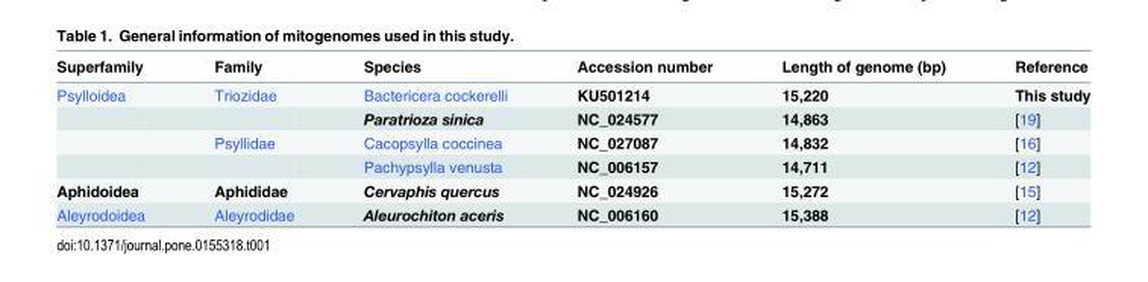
<table><thead><tr><td>Superfamily</td><td>Family</td><td>Species</td><td>Accession number</td><td>Length of genome (bp)</td><td>Reference</td></tr></thead><tbody><tr><td rowspan="4">Psylloidea</td><td>Triozidae</td><td>Bactericera cockerelli</td><td>KU501214</td><td>15,220</td><td>This study</td></tr><tr><td></td><td>Paratrioza sinica</td><td>NC_024577</td><td>14,863</td><td>[19]</td></tr><tr><td>Psyllidae</td><td>Cacopsylla coccinea</td><td>NC_027087</td><td>14,832</td><td>[16]</td></tr><tr><td></td><td>Pachypsylla venusta</td><td>NC_006157</td><td>14,711</td><td>[12]</td></tr><tr><td>Aphidoidea</td><td>Aphididae</td><td>Cervaphis quercus</td><td>NC_024926</td><td>15,272</td><td>[15]</td></tr><tr><td>Aleyrodoidea</td><td>Aleyrodidae</td><td>Aleurochiton aceris</td><td>NC_006160</td><td>15,388</td><td>[12]</td></tr></tbody></table>